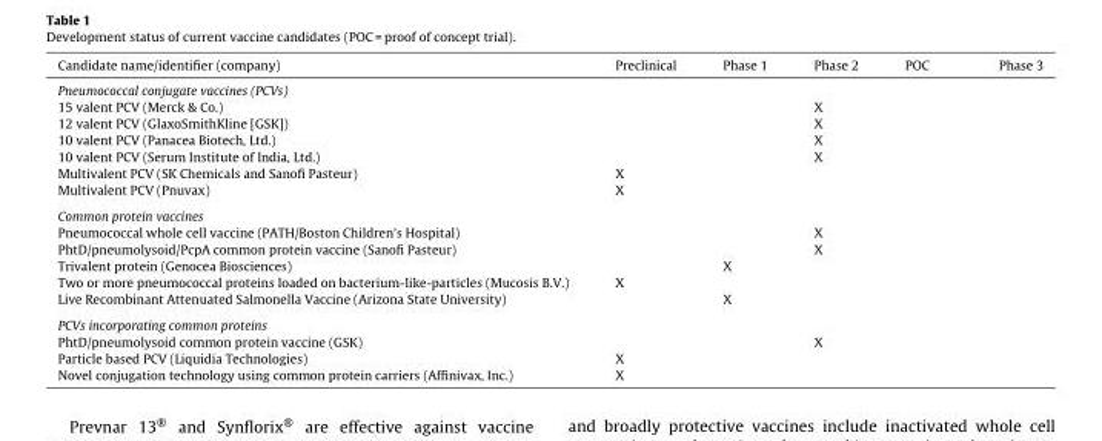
<table><thead><tr><td>Candidate name/identifier (company)</td><td>Preclinical</td><td>Phase 1</td><td>Phase 2</td><td>POC</td><td>Phase 3</td></tr></thead><tbody><tr><td colspan="6">Pneumococcal conjugate vaccines (PCVs)</td></tr><tr><td>15 valent PCV (Merck &amp; Co.)</td><td></td><td></td><td>X</td><td></td><td></td></tr><tr><td>12 valent PCV (GlaxoSmithKline [GSK])</td><td></td><td></td><td>X</td><td></td><td></td></tr><tr><td>10 valent PCV (Panacea Biotech, Ltd.)</td><td></td><td></td><td>X</td><td></td><td></td></tr><tr><td>10 valent PCV (Serum Institute of India, Ltd.)</td><td></td><td></td><td>X</td><td></td><td></td></tr><tr><td>Multivalent PCV (SK Chemicals and Sanofi Pasteur)</td><td>X</td><td></td><td></td><td></td><td></td></tr><tr><td>Multivalent PCV (Pnuvax)</td><td>X</td><td></td><td></td><td></td><td></td></tr><tr><td colspan="6">Common protein vaccines</td></tr><tr><td>Pneumococcal whole cell vaccine (PATH/Boston Children’s Hospital)</td><td></td><td></td><td>X</td><td></td><td></td></tr><tr><td>PhtD/pneumolysoid/PcpA common protein vaccine (Sanofi Pasteur)</td><td></td><td></td><td>X</td><td></td><td></td></tr><tr><td>Trivalent protein (Genocea Biosciences)</td><td></td><td>X</td><td></td><td></td><td></td></tr><tr><td>Two or more pneumococcal proteins loaded on bacterium-like-particles (Mucosis B.V.)</td><td>X</td><td></td><td></td><td></td><td></td></tr><tr><td>Live Recombinant Attenuated Salmonella Vaccine (Arizona State University)</td><td></td><td>X</td><td></td><td></td><td></td></tr><tr><td colspan="6">PCVs incorporating common proteins</td></tr><tr><td>PhtD/pneumolysoid common protein vaccine (GSK)</td><td></td><td></td><td>X</td><td></td><td></td></tr><tr><td>Particle based PCV (Liquidia Technologies)</td><td>X</td><td></td><td></td><td></td><td></td></tr><tr><td>Novel conjugation technology using common protein carriers (Affinivax, Inc.)</td><td>X</td><td></td><td></td><td></td><td></td></tr></tbody></table>